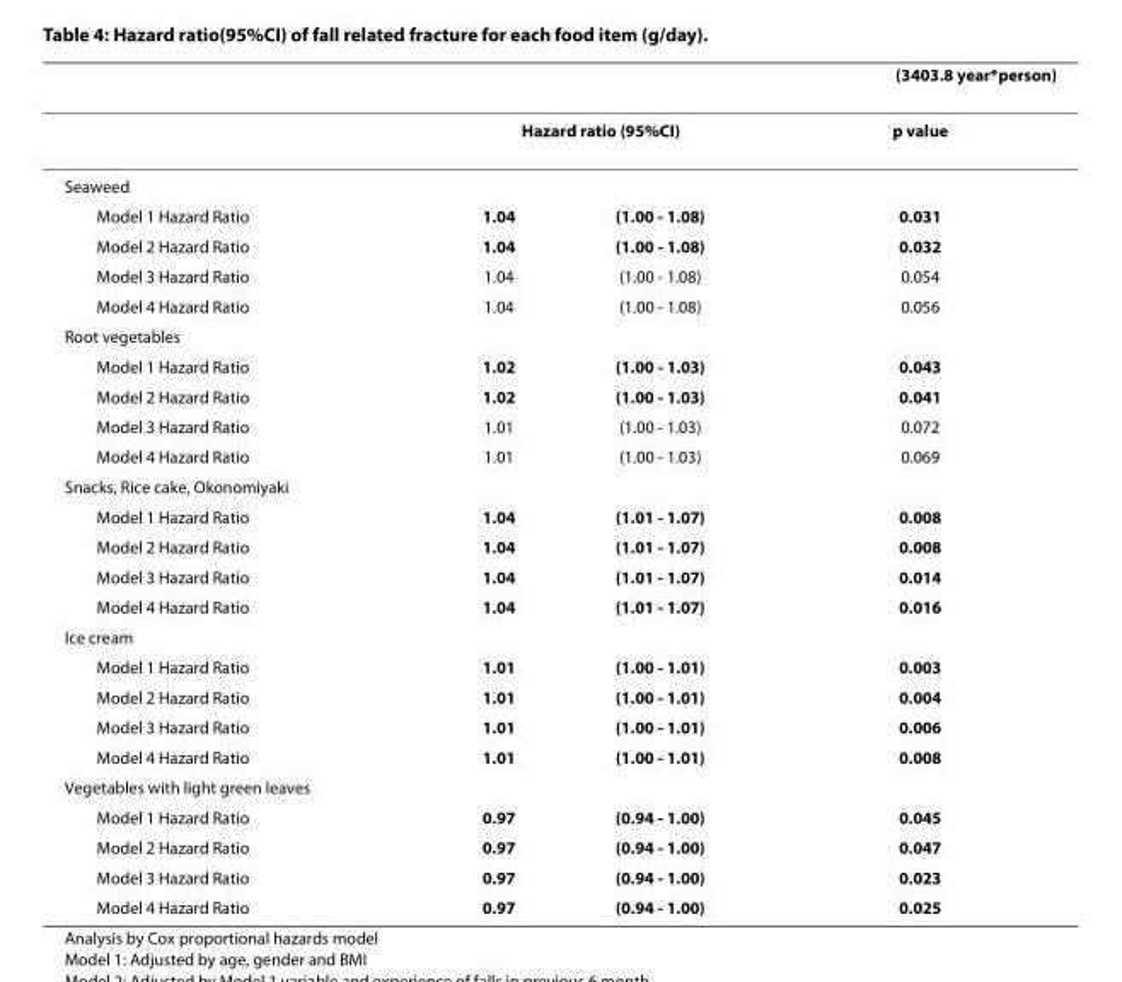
<table><thead><tr><td></td><td></td><td></td><td>(3403.8 year*person)</td></tr></thead><tbody><tr><td></td><td colspan="2">Hazard ratio (95%CI)</td><td>p value</td></tr><tr><td colspan="4">Seaweed</td></tr><tr><td>Model 1 Hazard Ratio</td><td>1.04</td><td>(1.00 - 1.08)</td><td>0.031</td></tr><tr><td>Model 2 Hazard Ratio</td><td>1.04</td><td>(1.00 - 1.08)</td><td>0.032</td></tr><tr><td>Model 3 Hazard Ratio</td><td>1.04</td><td>(1.00 - 1.08)</td><td>0.054</td></tr><tr><td>Model 4 Hazard Ratio</td><td>1.04</td><td>(1.00 - 1.08)</td><td>0.056</td></tr><tr><td colspan="4">Root vegetables</td></tr><tr><td>Model 1 Hazard Ratio</td><td>1.02</td><td>(1.00 - 1.03)</td><td>0.043</td></tr><tr><td>Model 2 Hazard Ratio</td><td>1.02</td><td>(1.00 - 1.03)</td><td>0.041</td></tr><tr><td>Model 3 Hazard Ratio</td><td>1.01</td><td>(1.00 - 1.03)</td><td>0.072</td></tr><tr><td>Model 4 Hazard Ratio</td><td>1.01</td><td>(1.00 - 1.03)</td><td>0.069</td></tr><tr><td colspan="4">Snacks, Rice cake, Okonomiyaki</td></tr><tr><td>Model 1 Hazard Ratio</td><td>1.04</td><td>(1.01 - 1.07)</td><td>0.008</td></tr><tr><td>Model 2 Hazard Ratio</td><td>1.04</td><td>(1.01 - 1.07)</td><td>0.008</td></tr><tr><td>Model 3 Hazard Ratio</td><td>1.04</td><td>(1.01 - 1.07)</td><td>0.014</td></tr><tr><td>Model 4 Hazard Ratio</td><td>1.04</td><td>(1.01 - 1.07)</td><td>0.016</td></tr><tr><td colspan="4">Ice cream</td></tr><tr><td>Model 1 Hazard Ratio</td><td>1.01</td><td>(1.00 - 1.01)</td><td>0.003</td></tr><tr><td>Model 2 Hazard Ratio</td><td>1.01</td><td>(1.00 - 1.01)</td><td>0.004</td></tr><tr><td>Model 3 Hazard Ratio</td><td>1.01</td><td>(1.00 - 1.01)</td><td>0.006</td></tr><tr><td>Model 4 Hazard Ratio</td><td>1.01</td><td>(1.00 - 1.01)</td><td>0.008</td></tr><tr><td colspan="4">Vegetables with light green leaves</td></tr><tr><td>Model 1 Hazard Ratio</td><td>0.97</td><td>(0.94 - 1.00)</td><td>0.045</td></tr><tr><td>Model 2 Hazard Ratio</td><td>0.97</td><td>(0.94 - 1.00)</td><td>0.047</td></tr><tr><td>Model 3 Hazard Ratio</td><td>0.97</td><td>(0.94 - 1.00)</td><td>0.023</td></tr><tr><td>Model 4 Hazard Ratio</td><td>0.97</td><td>(0.94 - 1.00)</td><td>0.025</td></tr></tbody></table>